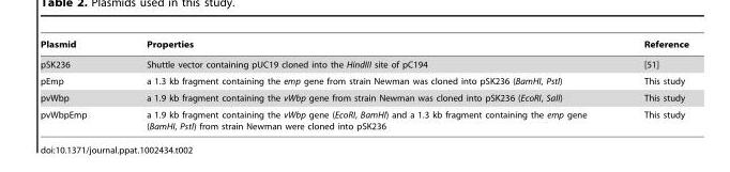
<table><thead><tr><td>Plasmid</td><td>Properties</td><td>Reference</td></tr></thead><tbody><tr><td>pSK236</td><td>Shuttle vector containing pUC19 cloned into the HindIII site of pC194</td><td>[51]</td></tr><tr><td>pEmp</td><td>a 1.3 kb fragment containing the emp gene from strain Newman was cloned into pSK236 (BamHI, PstI)</td><td>This study</td></tr><tr><td>pvWbp</td><td>a 1.9 kb fragment containing the vWbp gene from strain Newman was cloned into pSK236 (EcoRI, SalI)</td><td>This study</td></tr><tr><td>pvWbpEmp</td><td>a 1.9 kb fragment containing the vWbp gene (EcoRI, BamHI) and a 1.3 kb fragment containing the emp gene (BamHI, PstI) from strain Newman were cloned into pSK236</td><td>This study</td></tr></tbody></table>